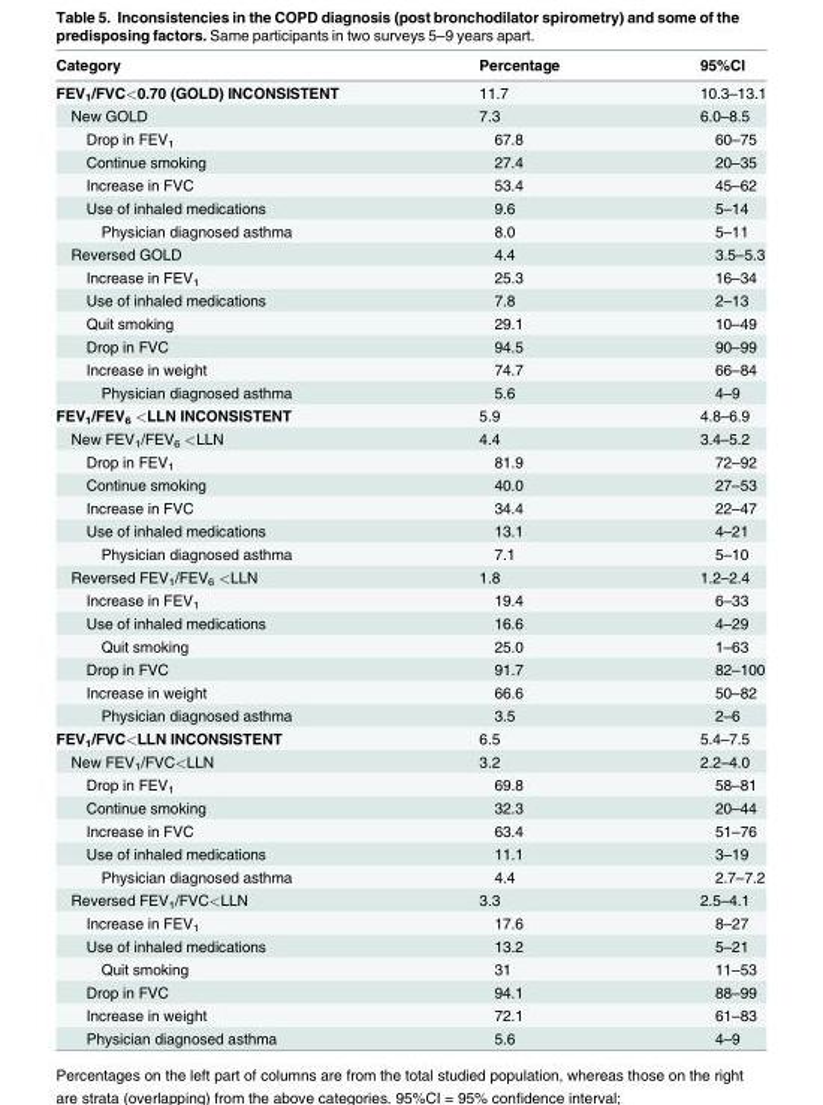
<table><thead><tr><td>Category</td><td>Percentage</td><td>95%CI</td></tr></thead><tbody><tr><td>FEV<sub>1</sub>/FVC&lt;0.70 (GOLD) INCONSISTENT</td><td>11.7</td><td>10.3–13.1</td></tr><tr><td>New GOLD</td><td>7.3</td><td>6.0–8.5</td></tr><tr><td>Drop in FEV<sub>1</sub></td><td>67.8</td><td>60–75</td></tr><tr><td>Continue smoking</td><td>27.4</td><td>20–35</td></tr><tr><td>Increase in FVC</td><td>53.4</td><td>45–62</td></tr><tr><td>Use of inhaled medications</td><td>9.6</td><td>5–14</td></tr><tr><td>Physician diagnosed asthma</td><td>8.0</td><td>5–11</td></tr><tr><td>Reversed GOLD</td><td>4.4</td><td>3.5–5.3</td></tr><tr><td>Increase in FEV<sub>1</sub></td><td>25.3</td><td>16–34</td></tr><tr><td>Use of inhaled medications</td><td>7.8</td><td>2–13</td></tr><tr><td>Quit smoking</td><td>29.1</td><td>10–49</td></tr><tr><td>Drop in FVC</td><td>94.5</td><td>90–99</td></tr><tr><td>Increase in weight</td><td>74.7</td><td>66–84</td></tr><tr><td>Physician diagnosed asthma</td><td>5.6</td><td>4–9</td></tr><tr><td>FEV<sub>1</sub>/FEV<sub>6</sub> &lt;LLN INCONSISTENT</td><td>5.9</td><td>4.8–6.9</td></tr><tr><td>New FEV<sub>1</sub>/FEV<sub>6</sub> &lt;LLN</td><td>4.4</td><td>3.4–5.2</td></tr><tr><td>Drop in FEV<sub>1</sub></td><td>81.9</td><td>72–92</td></tr><tr><td>Continue smoking</td><td>40.0</td><td>27–53</td></tr><tr><td>Increase in FVC</td><td>34.4</td><td>22–47</td></tr><tr><td>Use of inhaled medications</td><td>13.1</td><td>4–21</td></tr><tr><td>Physician diagnosed asthma</td><td>7.1</td><td>5–10</td></tr><tr><td>Reversed FEV<sub>1</sub>/FEV<sub>6</sub> &lt;LLN</td><td>1.8</td><td>1.2–2.4</td></tr><tr><td>Increase in FEV<sub>1</sub></td><td>19.4</td><td>6–33</td></tr><tr><td>Use of inhaled medications</td><td>16.6</td><td>4–29</td></tr><tr><td>Quit smoking</td><td>25.0</td><td>1–63</td></tr><tr><td>Drop in FVC</td><td>91.7</td><td>82–100</td></tr><tr><td>Increase in weight</td><td>66.6</td><td>50–82</td></tr><tr><td>Physician diagnosed asthma</td><td>3.5</td><td>2–6</td></tr><tr><td>FEV<sub>1</sub>/FVC&lt;LLN INCONSISTENT</td><td>6.5</td><td>5.4–7.5</td></tr><tr><td>New FEV<sub>1</sub>/FVC&lt;LLN</td><td>3.2</td><td>2.2–4.0</td></tr><tr><td>Drop in FEV<sub>1</sub></td><td>69.8</td><td>58–81</td></tr><tr><td>Continue smoking</td><td>32.3</td><td>20–44</td></tr><tr><td>Increase in FVC</td><td>63.4</td><td>51–76</td></tr><tr><td>Use of inhaled medications</td><td>11.1</td><td>3–19</td></tr><tr><td>Physician diagnosed asthma</td><td>4.4</td><td>2.7–7.2</td></tr><tr><td>Reversed FEV<sub>1</sub>/FVC&lt;LLN</td><td>3.3</td><td>2.5–4.1</td></tr><tr><td>Increase in FEV<sub>1</sub></td><td>17.6</td><td>8–27</td></tr><tr><td>Use of inhaled medications</td><td>13.2</td><td>5–21</td></tr><tr><td>Quit smoking</td><td>31</td><td>11–53</td></tr><tr><td>Drop in FVC</td><td>94.1</td><td>88–99</td></tr><tr><td>Increase in weight</td><td>72.1</td><td>61–83</td></tr><tr><td>Physician diagnosed asthma</td><td>5.6</td><td>4–9</td></tr></tbody></table>